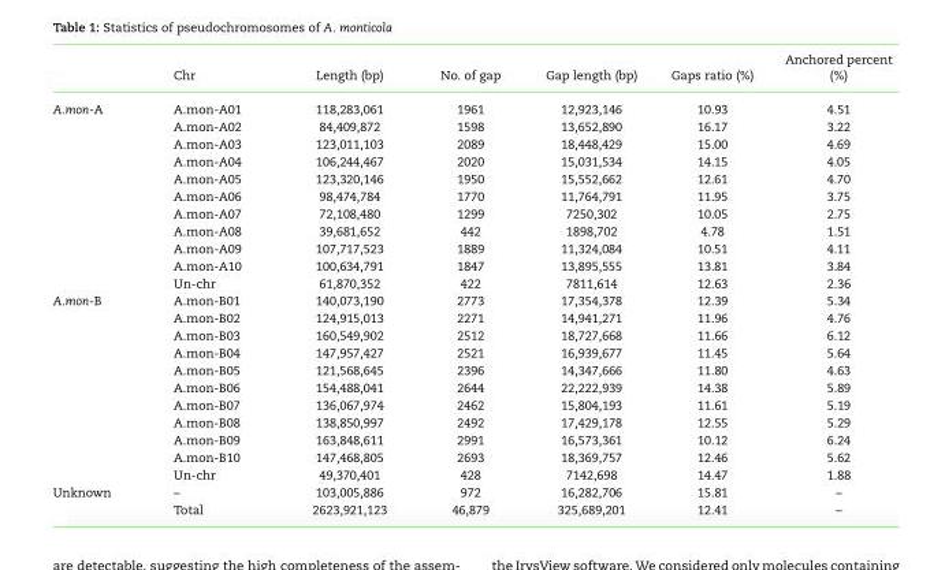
<table><thead><tr><td></td><td>Chr</td><td>Length (bp)</td><td>No. of gap</td><td>Gap length (bp)</td><td>Gaps ratio (%)</td><td>Anchored percent (%)</td></tr></thead><tbody><tr><td rowspan="11">A.mon-A</td><td>A.mon-A01</td><td>118,283,061</td><td>1961</td><td>12,923,146</td><td>10.93</td><td>4.51</td></tr><tr><td>A.mon-A02</td><td>84,409,872</td><td>1598</td><td>13,652,890</td><td>16.17</td><td>3.22</td></tr><tr><td>A.mon-A03</td><td>123,011,103</td><td>2089</td><td>18,448,429</td><td>15.00</td><td>4.69</td></tr><tr><td>A.mon-A04</td><td>106,244,467</td><td>2020</td><td>15,031,534</td><td>14.15</td><td>4.05</td></tr><tr><td>A.mon-A05</td><td>123,320,146</td><td>1950</td><td>15,552,662</td><td>12.61</td><td>4.70</td></tr><tr><td>A.mon-A06</td><td>98,474,784</td><td>1770</td><td>11,764,791</td><td>11.95</td><td>3.75</td></tr><tr><td>A.mon-A07</td><td>72,108,480</td><td>1299</td><td>7250,302</td><td>10.05</td><td>2.75</td></tr><tr><td>A.mon-A08</td><td>39,681,652</td><td>442</td><td>1898,702</td><td>4.78</td><td>1.51</td></tr><tr><td>A.mon-A09</td><td>107,717,523</td><td>1889</td><td>11,324,084</td><td>10.51</td><td>4.11</td></tr><tr><td>A.mon-A10</td><td>100,634,791</td><td>1847</td><td>13,895,555</td><td>13.81</td><td>3.84</td></tr><tr><td>Un-chr</td><td>61,870,352</td><td>422</td><td>7811,614</td><td>12.63</td><td>2.36</td></tr><tr><td rowspan="11">A.mon-B</td><td>A.mon-B01</td><td>140,073,190</td><td>2773</td><td>17,354,378</td><td>12.39</td><td>5.34</td></tr><tr><td>A.mon-B02</td><td>124,915,013</td><td>2271</td><td>14,941,271</td><td>11.96</td><td>4.76</td></tr><tr><td>A.mon-B03</td><td>160,549,902</td><td>2512</td><td>18,727,668</td><td>11.66</td><td>6.12</td></tr><tr><td>A.mon-B04</td><td>147,957,427</td><td>2521</td><td>16,939,677</td><td>11.45</td><td>5.64</td></tr><tr><td>A.mon-B05</td><td>121,568,645</td><td>2396</td><td>14,347,666</td><td>11.80</td><td>4.63</td></tr><tr><td>A.mon-B06</td><td>154,488,041</td><td>2644</td><td>22,222,939</td><td>14.38</td><td>5.89</td></tr><tr><td>A.mon-B07</td><td>136,067,974</td><td>2462</td><td>15,804,193</td><td>11.61</td><td>5.19</td></tr><tr><td>A.mon-B08</td><td>138,850,997</td><td>2492</td><td>17,429,178</td><td>12.55</td><td>5.29</td></tr><tr><td>A.mon-B09</td><td>163,848,611</td><td>2991</td><td>16,573,361</td><td>10.12</td><td>6.24</td></tr><tr><td>A.mon-B10</td><td>147,468,805</td><td>2693</td><td>18,369,757</td><td>12.46</td><td>5.62</td></tr><tr><td>Un-chr</td><td>49,370,401</td><td>428</td><td>7142,698</td><td>14.47</td><td>1.88</td></tr><tr><td rowspan="2">Unknown</td><td>–</td><td>103,005,886</td><td>972</td><td>16,282,706</td><td>15.81</td><td>–</td></tr><tr><td>Total</td><td>2623,921,123</td><td>46,879</td><td>325,689,201</td><td>12.41</td><td>–</td></tr></tbody></table>